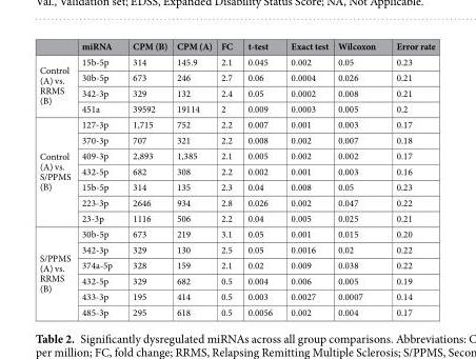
<table><thead><tr><td></td><td>miRNA</td><td>CPM (B)</td><td>CPM (A)</td><td>FC</td><td>t-test</td><td>Exact test</td><td>Wilcoxon</td><td>Error rate</td></tr></thead><tbody><tr><td rowspan="4">Control (A) vs. RRMS (B)</td><td>15b-5p</td><td>314</td><td>145.9</td><td>2.1</td><td>0.045</td><td>0.002</td><td>0.05</td><td>0.23</td></tr><tr><td>30b-5p</td><td>673</td><td>246</td><td>2.7</td><td>0.06</td><td>0.0004</td><td>0.026</td><td>0.21</td></tr><tr><td>342-3p</td><td>329</td><td>132</td><td>2.4</td><td>0.05</td><td>0.0002</td><td>0.008</td><td>0.21</td></tr><tr><td>451a</td><td>39592</td><td>19114</td><td>2</td><td>0.009</td><td>0.0003</td><td>0.005</td><td>0.2</td></tr><tr><td rowspan="7">Control (A) vs. S/PPMS (B)</td><td>127-3p</td><td>1,715</td><td>752</td><td>2.2</td><td>0.007</td><td>0.001</td><td>0.003</td><td>0.17</td></tr><tr><td>370-3p</td><td>707</td><td>321</td><td>2.2</td><td>0.008</td><td>0.002</td><td>0.007</td><td>0.18</td></tr><tr><td>409-3p</td><td>2,893</td><td>1,385</td><td>2.1</td><td>0.005</td><td>0.002</td><td>0.002</td><td>0.17</td></tr><tr><td>432-5p</td><td>682</td><td>308</td><td>2.2</td><td>0.002</td><td>0.001</td><td>0.003</td><td>0.16</td></tr><tr><td>15b-5p</td><td>314</td><td>135</td><td>2.3</td><td>0.04</td><td>0.008</td><td>0.05</td><td>0.23</td></tr><tr><td>223-3p</td><td>2646</td><td>934</td><td>2.8</td><td>0.026</td><td>0.002</td><td>0.047</td><td>0.22</td></tr><tr><td>23-3p</td><td>1116</td><td>506</td><td>2.2</td><td>0.04</td><td>0.005</td><td>0.025</td><td>0.21</td></tr><tr><td rowspan="6">S/PPMS (A) vs. RRMS (B)</td><td>30b-5p</td><td>673</td><td>219</td><td>3.1</td><td>0.05</td><td>0.001</td><td>0.015</td><td>0.20</td></tr><tr><td>342-3p</td><td>329</td><td>130</td><td>2.5</td><td>0.05</td><td>0.0016</td><td>0.02</td><td>0.22</td></tr><tr><td>374a-5p</td><td>328</td><td>159</td><td>2.1</td><td>0.02</td><td>0.009</td><td>0.038</td><td>0.22</td></tr><tr><td>432-5p</td><td>329</td><td>682</td><td>0.5</td><td>0.004</td><td>0.006</td><td>0.005</td><td>0.19</td></tr><tr><td>433-3p</td><td>195</td><td>414</td><td>0.5</td><td>0.003</td><td>0.0027</td><td>0.0007</td><td>0.14</td></tr><tr><td>485-3p</td><td>295</td><td>618</td><td>0.5</td><td>0.0056</td><td>0.002</td><td>0.004</td><td>0.17</td></tr></tbody></table>